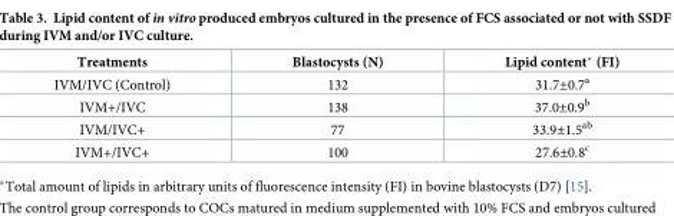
<table><thead><tr><td>Treatments</td><td>Blastocysts (N)</td><td>Lipid content* (FI)</td></tr></thead><tbody><tr><td>IVM/IVC (Control)</td><td>132</td><td>31.7±0.7<sup>a</sup></td></tr><tr><td>IVM+/IVC</td><td>138</td><td>37.0±0.9<sup>b</sup></td></tr><tr><td>IVM/IVC+</td><td>77</td><td>33.9±1.5<sup>ab</sup></td></tr><tr><td>IVM+/IVC+</td><td>100</td><td>27.6±0.8<sup>c</sup></td></tr></tbody></table>